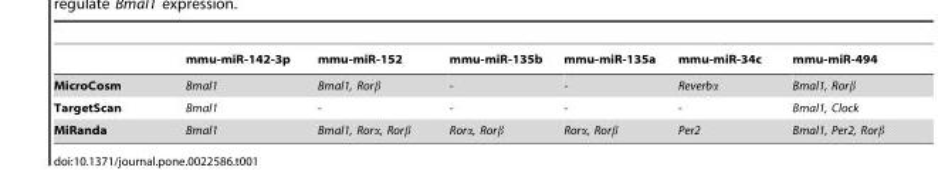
<table><thead><tr><td></td><td>mmu-miR-142-3p</td><td>mmu-miR-152</td><td>mmu-miR-135b</td><td>mmu-miR-135a</td><td>mmu-miR-34c</td><td>mmu-miR-494</td></tr></thead><tbody><tr><td>MicroCosm</td><td>Bmal1</td><td>Bmal1, Rorβ</td><td>-</td><td>-</td><td>Reverbα</td><td>Bmal1, Rorβ</td></tr><tr><td>TargetScan</td><td>Bmal1</td><td>-</td><td>-</td><td>-</td><td>-</td><td>Bmal1, Clock</td></tr><tr><td>MiRanda</td><td>Bmal1</td><td>Bmal1, Rorα, Rorβ</td><td>Rorα, Rorβ</td><td>Rorα, Rorβ</td><td>Per2</td><td>Bmal1, Per2, Rorβ</td></tr></tbody></table>